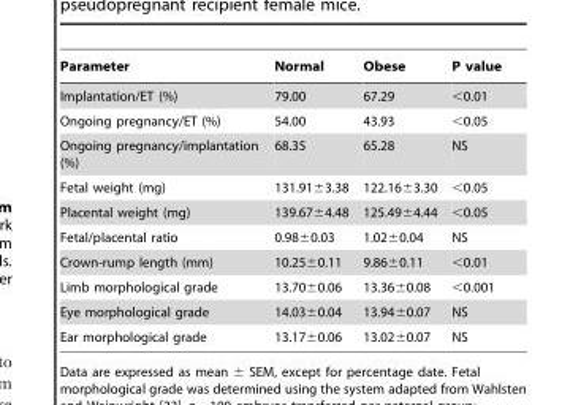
<table><thead><tr><td>Parameter</td><td>Normal</td><td>Obese</td><td>P value</td></tr></thead><tbody><tr><td>Implantation/ET (%)</td><td>79.00</td><td>67.29</td><td>&lt;0.01</td></tr><tr><td>Ongoing pregnancy/ET (%)</td><td>54.00</td><td>43.93</td><td>&lt;0.05</td></tr><tr><td>Ongoing pregnancy/implantation (%)</td><td>68.35</td><td>65.28</td><td>NS</td></tr><tr><td>Fetal weight (mg)</td><td>131.91±3.38</td><td>122.16±3.30</td><td>&lt;0.05</td></tr><tr><td>Placental weight (mg)</td><td>139.67±4.48</td><td>125.49±4.44</td><td>&lt;0.05</td></tr><tr><td>Fetal/placental ratio</td><td>0.98±0.03</td><td>1.02±0.04</td><td>NS</td></tr><tr><td>Crown-rump length (mm)</td><td>10.25±0.11</td><td>9.86±0.11</td><td>&lt;0.01</td></tr><tr><td>Limb morphological grade</td><td>13.70±0.06</td><td>13.36±0.08</td><td>&lt;0.001</td></tr><tr><td>Eye morphological grade</td><td>14.03±0.04</td><td>13.94±0.07</td><td>NS</td></tr><tr><td>Ear morphological grade</td><td>13.17±0.06</td><td>13.02±0.07</td><td>NS</td></tr></tbody></table>